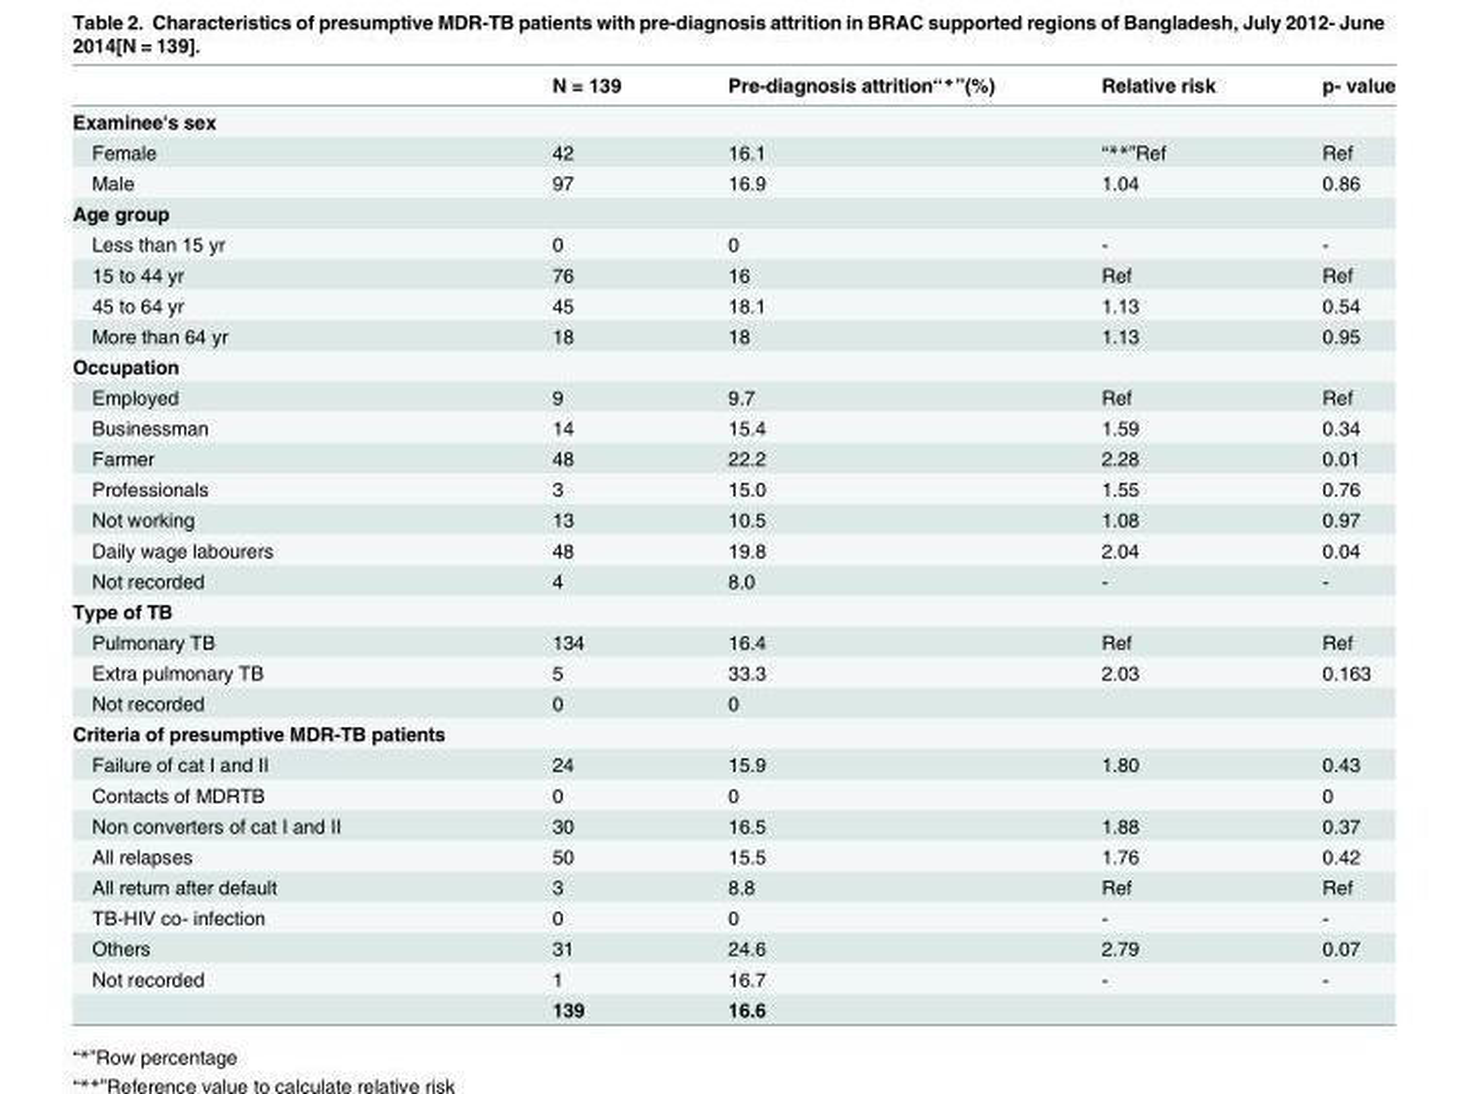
<table><thead><tr><td></td><td>N = 139</td><td>Pre-diagnosis attrition“*”(%)</td><td>Relative risk</td><td>p- value</td></tr></thead><tbody><tr><td colspan="5">Examinee&#x27;s sex</td></tr><tr><td>Female</td><td>42</td><td>16.1</td><td>“**”Ref</td><td>Ref</td></tr><tr><td>Male</td><td>97</td><td>16.9</td><td>1.04</td><td>0.86</td></tr><tr><td colspan="5">Age group</td></tr><tr><td>Less than 15 yr</td><td>0</td><td>0</td><td>-</td><td>-</td></tr><tr><td>15 to 44 yr</td><td>76</td><td>16</td><td>Ref</td><td>Ref</td></tr><tr><td>45 to 64 yr</td><td>45</td><td>18.1</td><td>1.13</td><td>0.54</td></tr><tr><td>More than 64 yr</td><td>18</td><td>18</td><td>1.13</td><td>0.95</td></tr><tr><td colspan="5">Occupation</td></tr><tr><td>Employed</td><td>9</td><td>9.7</td><td>Ref</td><td>Ref</td></tr><tr><td>Businessman</td><td>14</td><td>15.4</td><td>1.59</td><td>0.34</td></tr><tr><td>Farmer</td><td>48</td><td>22.2</td><td>2.28</td><td>0.01</td></tr><tr><td>Professionals</td><td>3</td><td>15.0</td><td>1.55</td><td>0.76</td></tr><tr><td>Not working</td><td>13</td><td>10.5</td><td>1.08</td><td>0.97</td></tr><tr><td>Daily wage labourers</td><td>48</td><td>19.8</td><td>2.04</td><td>0.04</td></tr><tr><td>Not recorded</td><td>4</td><td>8.0</td><td>-</td><td>-</td></tr><tr><td colspan="5">Type of TB</td></tr><tr><td>Pulmonary TB</td><td>134</td><td>16.4</td><td>Ref</td><td>Ref</td></tr><tr><td>Extra pulmonary TB</td><td>5</td><td>33.3</td><td>2.03</td><td>0.163</td></tr><tr><td>Not recorded</td><td>0</td><td>0</td><td></td><td></td></tr><tr><td colspan="5">Criteria of presumptive MDR-TB patients</td></tr><tr><td>Failure of cat I and II</td><td>24</td><td>15.9</td><td>1.80</td><td>0.43</td></tr><tr><td>Contacts of MDRTB</td><td>0</td><td>0</td><td></td><td>0</td></tr><tr><td>Non converters of cat I and II</td><td>30</td><td>16.5</td><td>1.88</td><td>0.37</td></tr><tr><td>All relapses</td><td>50</td><td>15.5</td><td>1.76</td><td>0.42</td></tr><tr><td>All return after default</td><td>3</td><td>8.8</td><td>Ref</td><td>Ref</td></tr><tr><td>TB-HIV co- infection</td><td>0</td><td>0</td><td>-</td><td>-</td></tr><tr><td>Others</td><td>31</td><td>24.6</td><td>2.79</td><td>0.07</td></tr><tr><td rowspan="2">Not recorded</td><td>1</td><td>16.7</td><td>-</td><td>-</td></tr><tr><td>139</td><td>16.6</td><td></td><td></td></tr></tbody></table>